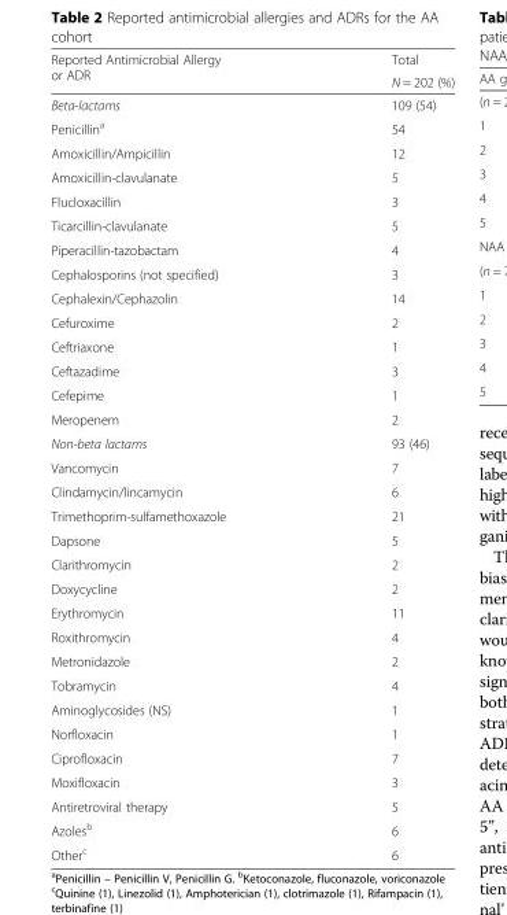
<table><thead><tr><td rowspan="2">Reported Antimicrobial Allergy or ADR</td><td rowspan="2">Total N = 202 (%)</td></tr><tr></tr></thead><tbody><tr><td>Beta-lactams</td><td>109 (54)</td></tr><tr><td>Penicillin<sup>a</sup></td><td>54</td></tr><tr><td>Amoxicillin/Ampicillin</td><td>12</td></tr><tr><td>Amoxicillin-clavulanate</td><td>5</td></tr><tr><td>Flucloxacillin</td><td>3</td></tr><tr><td>Ticarcillin-clavulanate</td><td>5</td></tr><tr><td>Piperacillin-tazobactam</td><td>4</td></tr><tr><td>Cephalosporins (not specified)</td><td>3</td></tr><tr><td>Cephalexin/Cephazolin</td><td>14</td></tr><tr><td>Cefuroxime</td><td>2</td></tr><tr><td>Ceftriaxone</td><td>1</td></tr><tr><td>Ceftazadime</td><td>3</td></tr><tr><td>Cefepime</td><td>1</td></tr><tr><td>Meropenem</td><td>2</td></tr><tr><td>Non-beta lactams</td><td>93 (46)</td></tr><tr><td>Vancomycin</td><td>7</td></tr><tr><td>Clindamycin/lincamycin</td><td>6</td></tr><tr><td>Trimethoprim-sulfamethoxazole</td><td>21</td></tr><tr><td>Dapsone</td><td>5</td></tr><tr><td>Clarithromycin</td><td>2</td></tr><tr><td>Doxycycline</td><td>2</td></tr><tr><td>Erythromycin</td><td>11</td></tr><tr><td>Roxithromycin</td><td>4</td></tr><tr><td>Metronidazole</td><td>2</td></tr><tr><td>Tobramycin</td><td>4</td></tr><tr><td>Aminoglycosides (NS)</td><td>1</td></tr><tr><td>Norfloxacin</td><td>1</td></tr><tr><td>Ciprofloxacin</td><td>7</td></tr><tr><td>Moxifloxacin</td><td>3</td></tr><tr><td>Antiretroviral therapy</td><td>5</td></tr><tr><td>Azoles<sup>b</sup></td><td>6</td></tr><tr><td>Other<sup>c</sup></td><td>6</td></tr></tbody></table>